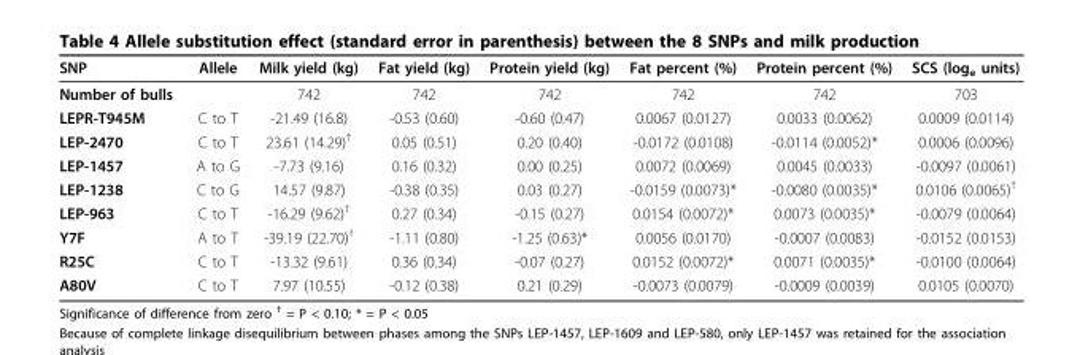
<table><thead><tr><td>SNP</td><td>Allele</td><td>Milk yield (kg)</td><td>Fat yield (kg)</td><td>Protein yield (kg)</td><td>Fat percent (%)</td><td>Protein percent (%)</td><td>SCS (log<sub>e</sub> units)</td></tr></thead><tbody><tr><td>Number of bulls</td><td></td><td>742</td><td>742</td><td>742</td><td>742</td><td>742</td><td>703</td></tr><tr><td>LEPR-T945M</td><td>C to T</td><td>-21.49 (16.8)</td><td>-0.53 (0.60)</td><td>-0.60 (0.47)</td><td>0.0067 (0.0127)</td><td>0.0033 (0.0062)</td><td>0.0009 (0.0114)</td></tr><tr><td>LEP-2470</td><td>C to T</td><td>23.61 (14.29)<sup>†</sup></td><td>0.05 (0.51)</td><td>0.20 (0.40)</td><td>-0.0172 (0.0108)</td><td>-0.0114 (0.0052)*</td><td>0.0006 (0.0096)</td></tr><tr><td>LEP-1457</td><td>A to G</td><td>-7.73 (9.16)</td><td>0.16 (0.32)</td><td>0.00 (0.25)</td><td>0.0072 (0.0069)</td><td>0.0045 (0.0033)</td><td>-0.0097 (0.0061)</td></tr><tr><td>LEP-1238</td><td>C to G</td><td>14.57 (9.87)</td><td>-0.38 (0.35)</td><td>0.03 (0.27)</td><td>-0.0159 (0.0073)*</td><td>-0.0080 (0.0035)*</td><td>0.0106 (0.0065)<sup>†</sup></td></tr><tr><td>LEP-963</td><td>C to T</td><td>-16.29 (9.62)<sup>†</sup></td><td>0.27 (0.34)</td><td>-0.15 (0.27)</td><td>0.0154 (0.0072)*</td><td>0.0073 (0.0035)*</td><td>-0.0079 (0.0064)</td></tr><tr><td>Y7F</td><td>A to T</td><td>-39.19 (22.70)<sup>†</sup></td><td>-1.11 (0.80)</td><td>-1.25 (0.63)*</td><td>0.0056 (0.0170)</td><td>-0.0007 (0.0083)</td><td>-0.0152 (0.0153)</td></tr><tr><td>R25C</td><td>C to T</td><td>-13.32 (9.61)</td><td>0.36 (0.34)</td><td>-0.07 (0.27)</td><td>0.0152 (0.0072)*</td><td>0.0071 (0.0035)*</td><td>-0.0100 (0.0064)</td></tr><tr><td>A80V</td><td>C to T</td><td>7.97 (10.55)</td><td>-0.12 (0.38)</td><td>0.21 (0.29)</td><td>-0.0073 (0.0079)</td><td>-0.0009 (0.0039)</td><td>0.0105 (0.0070)</td></tr></tbody></table>